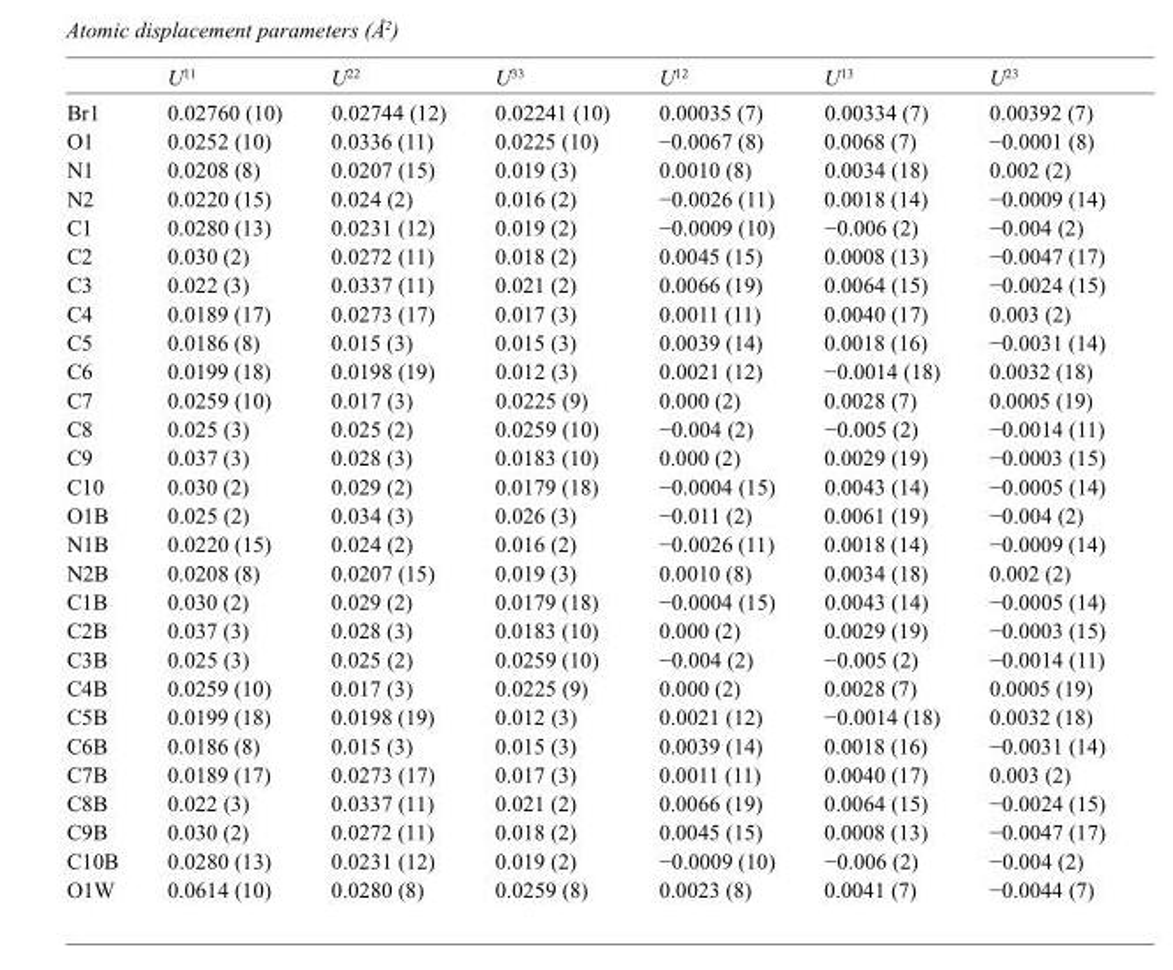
<table><thead><tr><td></td><td>U<sup>11</sup></td><td>U<sup>22</sup></td><td>U<sup>33</sup></td><td>U<sup>12</sup></td><td>U<sup>13</sup></td><td>U<sup>23</sup></td></tr></thead><tbody><tr><td>Br1</td><td>0.02760 (10)</td><td>0.02744 (12)</td><td>0.02241 (10)</td><td>0.00035 (7)</td><td>0.00334 (7)</td><td>0.00392 (7)</td></tr><tr><td>O1</td><td>0.0252 (10)</td><td>0.0336 (11)</td><td>0.0225 (10)</td><td>−0.0067 (8)</td><td>0.0068 (7)</td><td>−0.0001 (8)</td></tr><tr><td>N1</td><td>0.0208 (8)</td><td>0.0207 (15)</td><td>0.019 (3)</td><td>0.0010 (8)</td><td>0.0034 (18)</td><td>0.002 (2)</td></tr><tr><td>N2</td><td>0.0220 (15)</td><td>0.024 (2)</td><td>0.016 (2)</td><td>−0.0026 (11)</td><td>0.0018 (14)</td><td>−0.0009 (14)</td></tr><tr><td>C1</td><td>0.0280 (13)</td><td>0.0231 (12)</td><td>0.019 (2)</td><td>−0.0009 (10)</td><td>−0.006 (2)</td><td>−0.004 (2)</td></tr><tr><td>C2</td><td>0.030 (2)</td><td>0.0272 (11)</td><td>0.018 (2)</td><td>0.0045 (15)</td><td>0.0008 (13)</td><td>−0.0047 (17)</td></tr><tr><td>C3</td><td>0.022 (3)</td><td>0.0337 (11)</td><td>0.021 (2)</td><td>0.0066 (19)</td><td>0.0064 (15)</td><td>−0.0024 (15)</td></tr><tr><td>C4</td><td>0.0189 (17)</td><td>0.0273 (17)</td><td>0.017 (3)</td><td>0.0011 (11)</td><td>0.0040 (17)</td><td>0.003 (2)</td></tr><tr><td>C5</td><td>0.0186 (8)</td><td>0.015 (3)</td><td>0.015 (3)</td><td>0.0039 (14)</td><td>0.0018 (16)</td><td>−0.0031 (14)</td></tr><tr><td>C6</td><td>0.0199 (18)</td><td>0.0198 (19)</td><td>0.012 (3)</td><td>0.0021 (12)</td><td>−0.0014 (18)</td><td>0.0032 (18)</td></tr><tr><td>C7</td><td>0.0259 (10)</td><td>0.017 (3)</td><td>0.0225 (9)</td><td>0.000 (2)</td><td>0.0028 (7)</td><td>0.0005 (19)</td></tr><tr><td>C8</td><td>0.025 (3)</td><td>0.025 (2)</td><td>0.0259 (10)</td><td>−0.004 (2)</td><td>−0.005 (2)</td><td>−0.0014 (11)</td></tr><tr><td>C9</td><td>0.037 (3)</td><td>0.028 (3)</td><td>0.0183 (10)</td><td>0.000 (2)</td><td>0.0029 (19)</td><td>−0.0003 (15)</td></tr><tr><td>C10</td><td>0.030 (2)</td><td>0.029 (2)</td><td>0.0179 (18)</td><td>−0.0004 (15)</td><td>0.0043 (14)</td><td>−0.0005 (14)</td></tr><tr><td>O1B</td><td>0.025 (2)</td><td>0.034 (3)</td><td>0.026 (3)</td><td>−0.011 (2)</td><td>0.0061 (19)</td><td>−0.004 (2)</td></tr><tr><td>N1B</td><td>0.0220 (15)</td><td>0.024 (2)</td><td>0.016 (2)</td><td>−0.0026 (11)</td><td>0.0018 (14)</td><td>−0.0009 (14)</td></tr><tr><td>N2B</td><td>0.0208 (8)</td><td>0.0207 (15)</td><td>0.019 (3)</td><td>0.0010 (8)</td><td>0.0034 (18)</td><td>0.002 (2)</td></tr><tr><td>C1B</td><td>0.030 (2)</td><td>0.029 (2)</td><td>0.0179 (18)</td><td>−0.0004 (15)</td><td>0.0043 (14)</td><td>−0.0005 (14)</td></tr><tr><td>C2B</td><td>0.037 (3)</td><td>0.028 (3)</td><td>0.0183 (10)</td><td>0.000 (2)</td><td>0.0029 (19)</td><td>−0.0003 (15)</td></tr><tr><td>C3B</td><td>0.025 (3)</td><td>0.025 (2)</td><td>0.0259 (10)</td><td>−0.004 (2)</td><td>−0.005 (2)</td><td>−0.0014 (11)</td></tr><tr><td>C4B</td><td>0.0259 (10)</td><td>0.017 (3)</td><td>0.0225 (9)</td><td>0.000 (2)</td><td>0.0028 (7)</td><td>0.0005 (19)</td></tr><tr><td>C5B</td><td>0.0199 (18)</td><td>0.0198 (19)</td><td>0.012 (3)</td><td>0.0021 (12)</td><td>−0.0014 (18)</td><td>0.0032 (18)</td></tr><tr><td>C6B</td><td>0.0186 (8)</td><td>0.015 (3)</td><td>0.015 (3)</td><td>0.0039 (14)</td><td>0.0018 (16)</td><td>−0.0031 (14)</td></tr><tr><td>C7B</td><td>0.0189 (17)</td><td>0.0273 (17)</td><td>0.017 (3)</td><td>0.0011 (11)</td><td>0.0040 (17)</td><td>0.003 (2)</td></tr><tr><td>C8B</td><td>0.022 (3)</td><td>0.0337 (11)</td><td>0.021 (2)</td><td>0.0066 (19)</td><td>0.0064 (15)</td><td>−0.0024 (15)</td></tr><tr><td>C9B</td><td>0.030 (2)</td><td>0.0272 (11)</td><td>0.018 (2)</td><td>0.0045 (15)</td><td>0.0008 (13)</td><td>−0.0047 (17)</td></tr><tr><td>C10B</td><td>0.0280 (13)</td><td>0.0231 (12)</td><td>0.019 (2)</td><td>−0.0009 (10)</td><td>−0.006 (2)</td><td>−0.004 (2)</td></tr><tr><td>O1W</td><td>0.0614 (10)</td><td>0.0280 (8)</td><td>0.0259 (8)</td><td>0.0023 (8)</td><td>0.0041 (7)</td><td>−0.0044 (7)</td></tr></tbody></table>